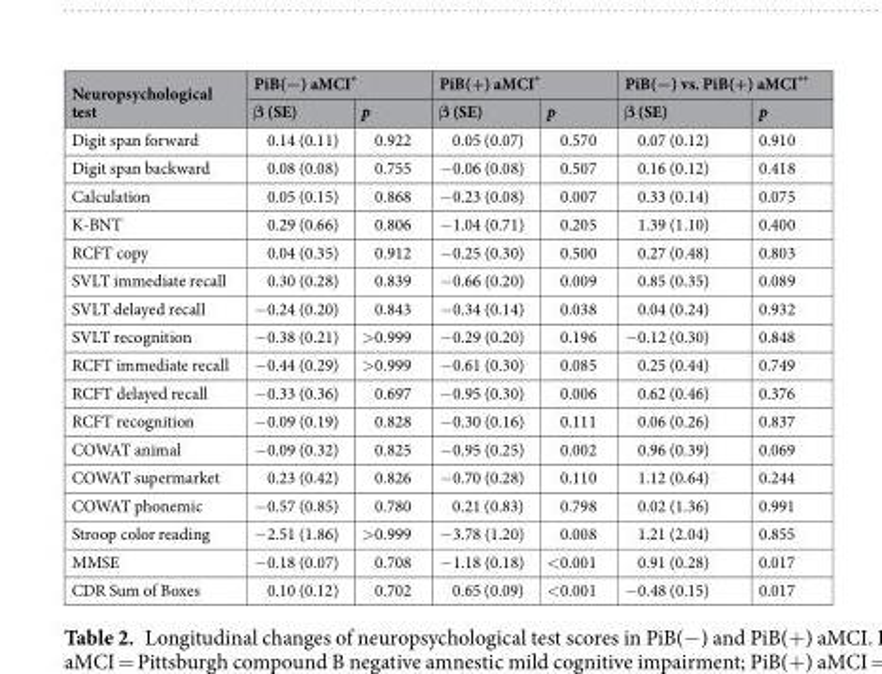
<table><thead><tr><td rowspan="2">Neuropsychological test</td><td colspan="2">PiB(−) aMCI*</td><td colspan="2">PiB(+) aMCI*</td><td colspan="2">PiB(−) vs. PiB(+) aMCI**</td></tr><tr><td>β (SE)</td><td>p</td><td>β (SE)</td><td>p</td><td>β (SE)</td><td>p</td></tr></thead><tbody><tr><td>Digit span forward</td><td>0.14 (0.11)</td><td>0.922</td><td>0.05 (0.07)</td><td>0.570</td><td>0.07 (0.12)</td><td>0.910</td></tr><tr><td>Digit span backward</td><td>0.08 (0.08)</td><td>0.755</td><td>−0.06 (0.08)</td><td>0.507</td><td>0.16 (0.12)</td><td>0.418</td></tr><tr><td>Calculation</td><td>0.05 (0.15)</td><td>0.868</td><td>−0.23 (0.08)</td><td>0.007</td><td>0.33 (0.14)</td><td>0.075</td></tr><tr><td>K-BNT</td><td>0.29 (0.66)</td><td>0.806</td><td>−1.04 (0.71)</td><td>0.205</td><td>1.39 (1.10)</td><td>0.400</td></tr><tr><td>RCFT copy</td><td>0.04 (0.35)</td><td>0.912</td><td>−0.25 (0.30)</td><td>0.500</td><td>0.27 (0.48)</td><td>0.803</td></tr><tr><td>SVLT immediate recall</td><td>0.30 (0.28)</td><td>0.839</td><td>−0.66 (0.20)</td><td>0.009</td><td>0.85 (0.35)</td><td>0.089</td></tr><tr><td>SVLT delayed recall</td><td>−0.24 (0.20)</td><td>0.843</td><td>−0.34 (0.14)</td><td>0.038</td><td>0.04 (0.24)</td><td>0.932</td></tr><tr><td>SVLT recognition</td><td>−0.38 (0.21)</td><td>&gt;0.999</td><td>−0.29 (0.20)</td><td>0.196</td><td>−0.12 (0.30)</td><td>0.848</td></tr><tr><td>RCFT immediate recall</td><td>−0.44 (0.29)</td><td>&gt;0.999</td><td>−0.61 (0.30)</td><td>0.085</td><td>0.25 (0.44)</td><td>0.749</td></tr><tr><td>RCFT delayed recall</td><td>−0.33 (0.36)</td><td>0.697</td><td>−0.95 (0.30)</td><td>0.006</td><td>0.62 (0.46)</td><td>0.376</td></tr><tr><td>RCFT recognition</td><td>−0.09 (0.19)</td><td>0.828</td><td>−0.30 (0.16)</td><td>0.111</td><td>0.06 (0.26)</td><td>0.837</td></tr><tr><td>COWAT animal</td><td>−0.09 (0.32)</td><td>0.825</td><td>−0.95 (0.25)</td><td>0.002</td><td>0.96 (0.39)</td><td>0.069</td></tr><tr><td>COWAT supermarket</td><td>0.23 (0.42)</td><td>0.826</td><td>−0.70 (0.28)</td><td>0.110</td><td>1.12 (0.64)</td><td>0.244</td></tr><tr><td>COWAT phonemic</td><td>−0.57 (0.85)</td><td>0.780</td><td>0.21 (0.83)</td><td>0.798</td><td>0.02 (1.36)</td><td>0.991</td></tr><tr><td>Stroop color reading</td><td>−2.51 (1.86)</td><td>&gt;0.999</td><td>−3.78 (1.20)</td><td>0.008</td><td>1.21 (2.04)</td><td>0.855</td></tr><tr><td>MMSE</td><td>−0.18 (0.07)</td><td>0.708</td><td>−1.18 (0.18)</td><td>&lt;0.001</td><td>0.91 (0.28)</td><td>0.017</td></tr><tr><td>CDR Sum of Boxes</td><td>0.10 (0.12)</td><td>0.702</td><td>0.65 (0.09)</td><td>&lt;0.001</td><td>−0.48 (0.15)</td><td>0.017</td></tr></tbody></table>